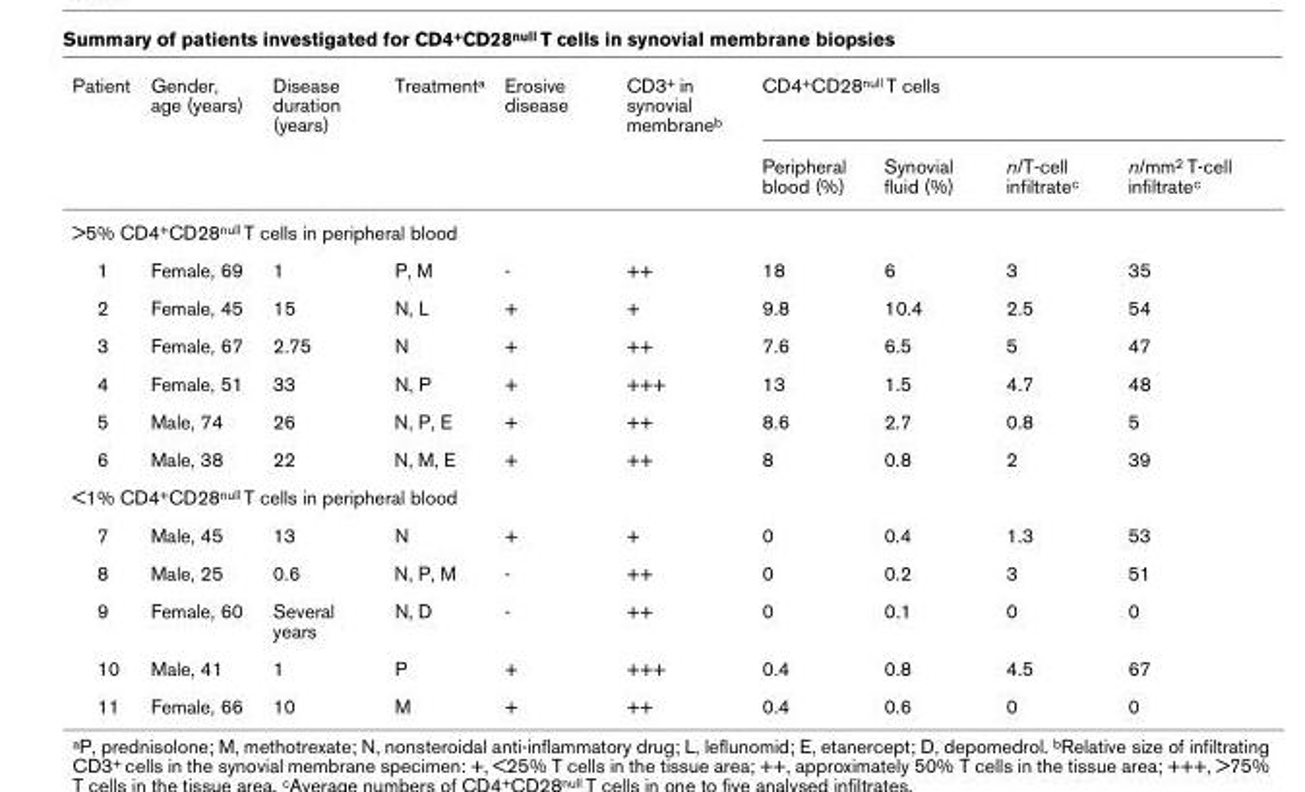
<table><thead><tr><td rowspan="2">Patient</td><td rowspan="2">Gender, age (years)</td><td rowspan="2">Disease duration (years)</td><td rowspan="2">Treatment<sup>a</sup></td><td rowspan="2">Erosive disease</td><td rowspan="2">CD3<sup>+</sup> in synovial membrane<sup>b</sup></td><td colspan="4">CD4<sup>+</sup>CD28<sup>null</sup> T cells</td></tr><tr><td>Peripheral blood (%)</td><td>Synovial fluid (%)</td><td>n/T-cell infiltrate<sup>c</sup></td><td>n/mm<sup>2</sup> T-cell infiltrate<sup>c</sup></td></tr></thead><tbody><tr><td colspan="10">&gt;5% CD4<sup>+</sup>CD28<sup>null</sup> T cells in peripheral blood</td></tr><tr><td>1</td><td>Female, 69</td><td>1</td><td>P, M</td><td>-</td><td>++</td><td>18</td><td>6</td><td>3</td><td>35</td></tr><tr><td>2</td><td>Female, 45</td><td>15</td><td>N, L</td><td>+</td><td>+</td><td>9.8</td><td>10.4</td><td>2.5</td><td>54</td></tr><tr><td>3</td><td>Female, 67</td><td>2.75</td><td>N</td><td>+</td><td>++</td><td>7.6</td><td>6.5</td><td>5</td><td>47</td></tr><tr><td>4</td><td>Female, 51</td><td>33</td><td>N, P</td><td>+</td><td>+++</td><td>13</td><td>1.5</td><td>4.7</td><td>48</td></tr><tr><td>5</td><td>Male, 74</td><td>26</td><td>N, P, E</td><td>+</td><td>++</td><td>8.6</td><td>2.7</td><td>0.8</td><td>5</td></tr><tr><td>6</td><td>Male, 38</td><td>22</td><td>N, M, E</td><td>+</td><td>++</td><td>8</td><td>0.8</td><td>2</td><td>39</td></tr><tr><td colspan="10">&lt;1% CD4<sup>+</sup>CD28<sup>null</sup> T cells in peripheral blood</td></tr><tr><td>7</td><td>Male, 45</td><td>13</td><td>N</td><td>+</td><td>+</td><td>0</td><td>0.4</td><td>1.3</td><td>53</td></tr><tr><td>8</td><td>Male, 25</td><td>0.6</td><td>N, P, M</td><td>-</td><td>++</td><td>0</td><td>0.2</td><td>3</td><td>51</td></tr><tr><td>9</td><td>Female, 60</td><td>Several years</td><td>N, D</td><td>-</td><td>++</td><td>0</td><td>0.1</td><td>0</td><td>0</td></tr><tr><td>10</td><td>Male, 41</td><td>1</td><td>P</td><td>+</td><td>+++</td><td>0.4</td><td>0.8</td><td>4.5</td><td>67</td></tr><tr><td>11</td><td>Female, 66</td><td>10</td><td>M</td><td>+</td><td>++</td><td>0.4</td><td>0.6</td><td>0</td><td>0</td></tr></tbody></table>